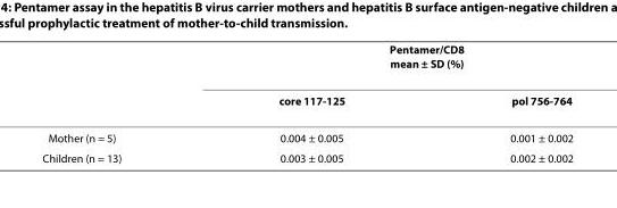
<table><thead><tr><td rowspan="2"></td><td colspan="2">Pentamer/CD8 mean ± SD (%)</td></tr><tr><td>core 117-125</td><td>pol 756-764</td></tr></thead><tbody><tr><td>Mother (n = 5)</td><td>0.004 ± 0.005</td><td>0.001 ± 0.002</td></tr><tr><td>Children (n = 13)</td><td>0.003 ± 0.005</td><td>0.002 ± 0.002</td></tr></tbody></table>